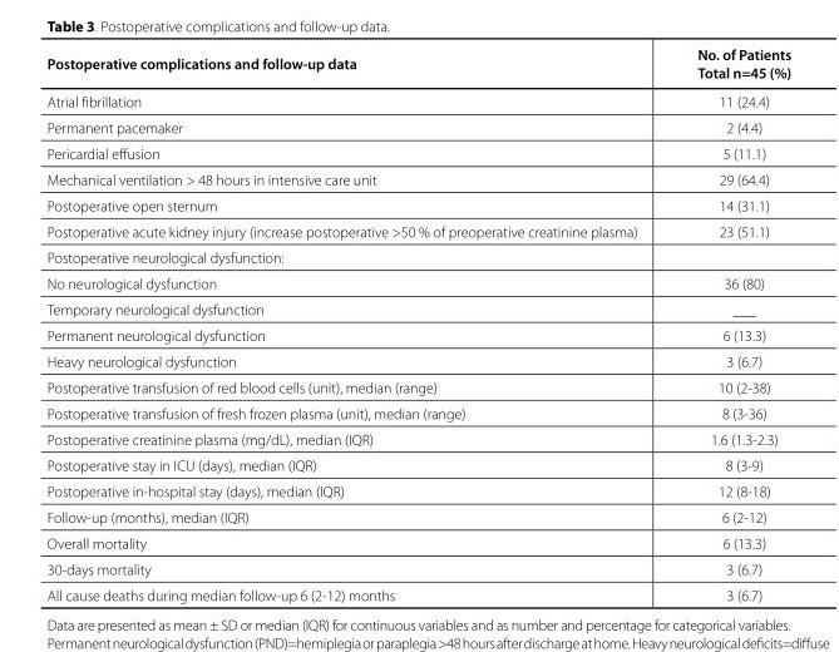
<table><thead><tr><td>Postoperative complications and follow-up data</td><td>No. of Patients Total n=45 (%)</td></tr></thead><tbody><tr><td>Atrial fibrillation</td><td>11 (24.4)</td></tr><tr><td>Permanent pacemaker</td><td>2 (4.4)</td></tr><tr><td>Pericardial effusion</td><td>5 (11.1)</td></tr><tr><td>Mechanical ventilation &gt; 48 hours in intensive care unit</td><td>29 (64.4)</td></tr><tr><td>Postoperative open sternum</td><td>14 (31.1)</td></tr><tr><td>Postoperative acute kidney injury (increase postoperative &gt;50 % of preoperative creatinine plasma)</td><td>23 (51.1)</td></tr><tr><td colspan="2">Postoperative neurological dysfunction:</td></tr><tr><td>No neurological dysfunction</td><td>36 (80)</td></tr><tr><td>Temporary neurological dysfunction</td><td>___</td></tr><tr><td>Permanent neurological dysfunction</td><td>6 (13.3)</td></tr><tr><td>Heavy neurological dysfunction</td><td>3 (6.7)</td></tr><tr><td>Postoperative transfusion of red blood cells (unit), median (range)</td><td>10 (2-38)</td></tr><tr><td>Postoperative transfusion of fresh frozen plasma (unit), median (range)</td><td>8 (3-36)</td></tr><tr><td>Postoperative creatinine plasma (mg/dL), median (IQR)</td><td>1.6 (1.3-2.3)</td></tr><tr><td>Postoperative stay in ICU (days), median (IQR)</td><td>8 (3-9)</td></tr><tr><td>Postoperative in-hospital stay (days), median (IQR)</td><td>12 (8-18)</td></tr><tr><td>Follow-up (months), median (IQR)</td><td>6 (2-12)</td></tr><tr><td>Overall mortality</td><td>6 (13.3)</td></tr><tr><td>30-days mortality</td><td>3 (6.7)</td></tr><tr><td>All cause deaths during median follow-up 6 (2-12) months</td><td>3 (6.7)</td></tr></tbody></table>